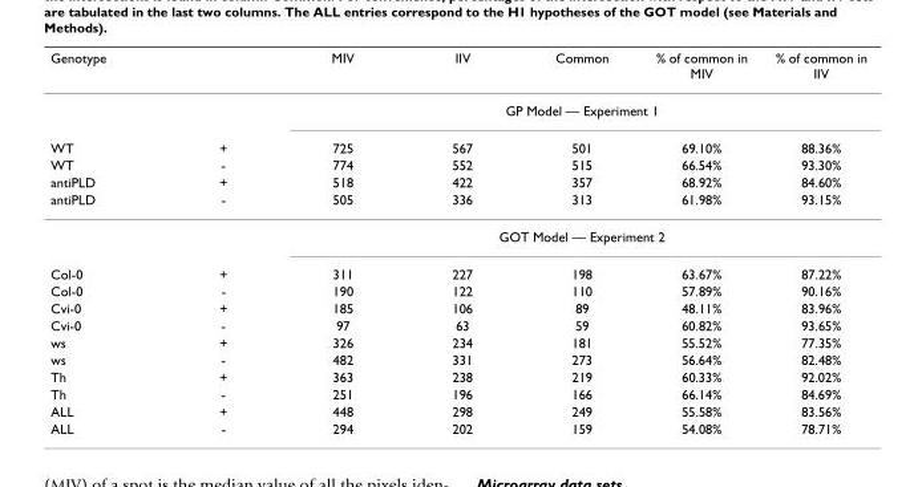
<table><thead><tr><td>Genotype</td><td></td><td>MIV</td><td>IIV</td><td>Common</td><td>% of common in MIV</td><td>% of common in IIV</td></tr></thead><tbody><tr><td></td><td></td><td colspan="5">GP Model — Experiment 1</td></tr><tr><td>WT</td><td>+</td><td>725</td><td>567</td><td>501</td><td>69.10%</td><td>88.36%</td></tr><tr><td>WT</td><td>-</td><td>774</td><td>552</td><td>515</td><td>66.54%</td><td>93.30%</td></tr><tr><td>antiPLD</td><td>+</td><td>518</td><td>422</td><td>357</td><td>68.92%</td><td>84.60%</td></tr><tr><td rowspan="2">antiPLD</td><td>-</td><td>505</td><td>336</td><td>313</td><td>61.98%</td><td>93.15%</td></tr><tr><td></td><td colspan="5">GOT Model — Experiment 2</td></tr><tr><td>Col-0</td><td>+</td><td>311</td><td>227</td><td>198</td><td>63.67%</td><td>87.22%</td></tr><tr><td>Col-0</td><td>-</td><td>190</td><td>122</td><td>110</td><td>57.89%</td><td>90.16%</td></tr><tr><td>Cvi-0</td><td>+</td><td>185</td><td>106</td><td>89</td><td>48.11%</td><td>83.96%</td></tr><tr><td>Cvi-0</td><td>-</td><td>97</td><td>63</td><td>59</td><td>60.82%</td><td>93.65%</td></tr><tr><td>ws</td><td>+</td><td>326</td><td>234</td><td>181</td><td>55.52%</td><td>77.35%</td></tr><tr><td>ws</td><td>-</td><td>482</td><td>331</td><td>273</td><td>56.64%</td><td>82.48%</td></tr><tr><td>Th</td><td>+</td><td>363</td><td>238</td><td>219</td><td>60.33%</td><td>92.02%</td></tr><tr><td>Th</td><td>-</td><td>251</td><td>196</td><td>166</td><td>66.14%</td><td>84.69%</td></tr><tr><td>ALL</td><td>+</td><td>448</td><td>298</td><td>249</td><td>55.58%</td><td>83.56%</td></tr><tr><td>ALL</td><td>-</td><td>294</td><td>202</td><td>159</td><td>54.08%</td><td>78.71%</td></tr></tbody></table>